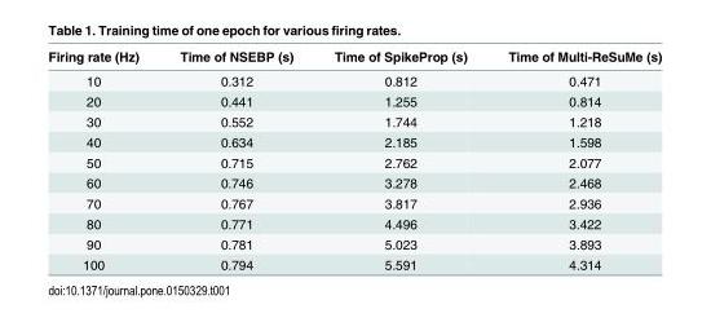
<table><thead><tr><td>Firing rate (Hz)</td><td>Time of NSEBP (s)</td><td>Time of SpikeProp (s)</td><td>Time of Multi-ReSuMe (s)</td></tr></thead><tbody><tr><td>10</td><td>0.312</td><td>0.812</td><td>0.471</td></tr><tr><td>20</td><td>0.441</td><td>1.255</td><td>0.814</td></tr><tr><td>30</td><td>0.552</td><td>1.744</td><td>1.218</td></tr><tr><td>40</td><td>0.634</td><td>2.185</td><td>1.598</td></tr><tr><td>50</td><td>0.715</td><td>2.762</td><td>2.077</td></tr><tr><td>60</td><td>0.746</td><td>3.278</td><td>2.468</td></tr><tr><td>70</td><td>0.767</td><td>3.817</td><td>2.936</td></tr><tr><td>80</td><td>0.771</td><td>4.496</td><td>3.422</td></tr><tr><td>90</td><td>0.781</td><td>5.023</td><td>3.893</td></tr><tr><td>100</td><td>0.794</td><td>5.591</td><td>4.314</td></tr></tbody></table>